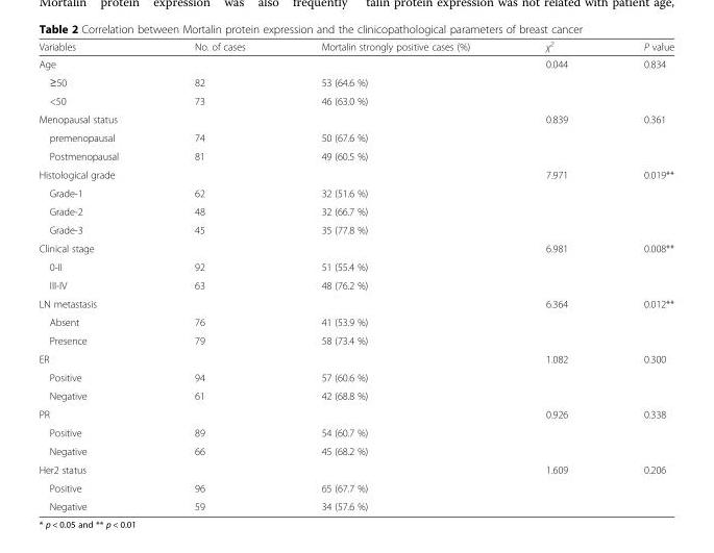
<table><thead><tr><td>Variables</td><td>No. of cases</td><td>Mortalin strongly positive cases (%)</td><td>χ<sup>2</sup></td><td>P value</td></tr></thead><tbody><tr><td>Age</td><td></td><td></td><td>0.044</td><td>0.834</td></tr><tr><td>≥50</td><td>82</td><td>53 (64.6 %)</td><td></td><td></td></tr><tr><td>&lt;50</td><td>73</td><td>46 (63.0 %)</td><td></td><td></td></tr><tr><td>Menopausal status</td><td></td><td></td><td>0.839</td><td>0.361</td></tr><tr><td>premenopausal</td><td>74</td><td>50 (67.6 %)</td><td></td><td></td></tr><tr><td>Postmenopausal</td><td>81</td><td>49 (60.5 %)</td><td></td><td></td></tr><tr><td>Histological grade</td><td></td><td></td><td>7.971</td><td>0.019**</td></tr><tr><td>Grade-1</td><td>62</td><td>32 (51.6 %)</td><td></td><td></td></tr><tr><td>Grade-2</td><td>48</td><td>32 (66.7 %)</td><td></td><td></td></tr><tr><td>Grade-3</td><td>45</td><td>35 (77.8 %)</td><td></td><td></td></tr><tr><td>Clinical stage</td><td></td><td></td><td>6.981</td><td>0.008**</td></tr><tr><td>0-II</td><td>92</td><td>51 (55.4 %)</td><td></td><td></td></tr><tr><td>III-IV</td><td>63</td><td>48 (76.2 %)</td><td></td><td></td></tr><tr><td>LN metastasis</td><td></td><td></td><td>6.364</td><td>0.012**</td></tr><tr><td>Absent</td><td>76</td><td>41 (53.9 %)</td><td></td><td></td></tr><tr><td>Presence</td><td>79</td><td>58 (73.4 %)</td><td></td><td></td></tr><tr><td>ER</td><td></td><td></td><td>1.082</td><td>0.300</td></tr><tr><td>Positive</td><td>94</td><td>57 (60.6 %)</td><td></td><td></td></tr><tr><td>Negative</td><td>61</td><td>42 (68.8 %)</td><td></td><td></td></tr><tr><td>PR</td><td></td><td></td><td>0.926</td><td>0.338</td></tr><tr><td>Positive</td><td>89</td><td>54 (60.7 %)</td><td></td><td></td></tr><tr><td>Negative</td><td>66</td><td>45 (68.2 %)</td><td></td><td></td></tr><tr><td>Her2 status</td><td></td><td></td><td>1.609</td><td>0.206</td></tr><tr><td>Positive</td><td>96</td><td>65 (67.7 %)</td><td></td><td></td></tr><tr><td>Negative</td><td>59</td><td>34 (57.6 %)</td><td></td><td></td></tr></tbody></table>